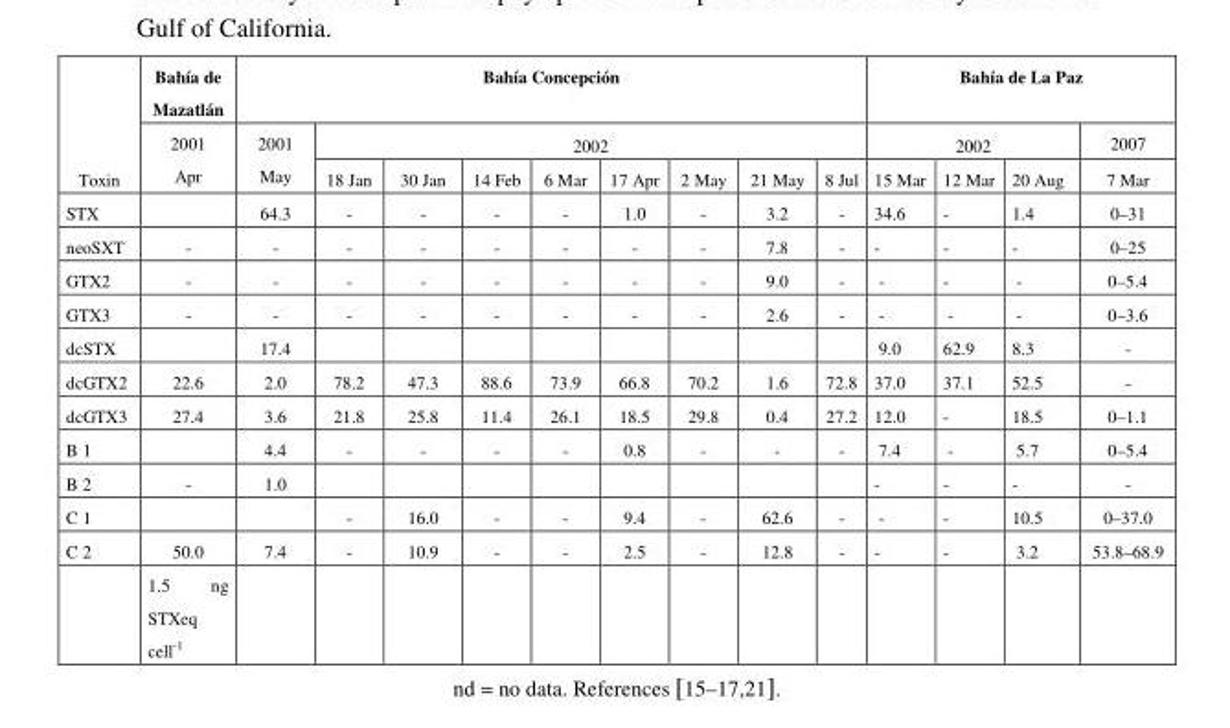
<table><thead><tr><td rowspan="3">Toxin</td><td rowspan="3">Bahía de Mazatlán 2001 Apr</td><td colspan="9">Bahía Concepción</td><td colspan="4">Bahía de La Paz</td></tr><tr><td rowspan="2">2001 May</td><td colspan="8">2002</td><td colspan="3">2002</td><td rowspan="2">2007 7 Mar</td></tr><tr><td>18 Jan</td><td>30 Jan</td><td>14 Feb</td><td>6 Mar</td><td>17 Apr</td><td>2 May</td><td>21 May</td><td>8 Jul</td><td>15 Mar</td><td>12 Mar</td><td>20 Aug</td></tr></thead><tbody><tr><td>STX</td><td></td><td>64.3</td><td>-</td><td>-</td><td>-</td><td>-</td><td>1.0</td><td>-</td><td>3.2</td><td>-</td><td>34.6</td><td>-</td><td>1.4</td><td>0–31</td></tr><tr><td>neoSXT</td><td>-</td><td>-</td><td>-</td><td>-</td><td>-</td><td>-</td><td>-</td><td>-</td><td>7.8</td><td>-</td><td>-</td><td>-</td><td>-</td><td>0–25</td></tr><tr><td>GTX2</td><td>-</td><td>-</td><td>-</td><td>-</td><td>-</td><td>-</td><td>-</td><td>-</td><td>9.0</td><td>-</td><td>-</td><td>-</td><td>-</td><td>0–5.4</td></tr><tr><td>GTX3</td><td>-</td><td>-</td><td>-</td><td>-</td><td>-</td><td>-</td><td>-</td><td>-</td><td>2.6</td><td>-</td><td>-</td><td>-</td><td>-</td><td>0–3.6</td></tr><tr><td>dcSTX</td><td></td><td>17.4</td><td></td><td></td><td></td><td></td><td></td><td></td><td></td><td></td><td>9.0</td><td>62.9</td><td>8.3</td><td>-</td></tr><tr><td>dcGTX2</td><td>22.6</td><td>2.0</td><td>78.2</td><td>47.3</td><td>88.6</td><td>73.9</td><td>66.8</td><td>70.2</td><td>1.6</td><td>72.8</td><td>37.0</td><td>37.1</td><td>52.5</td><td>-</td></tr><tr><td>dcGTX3</td><td>27.4</td><td>3.6</td><td>21.8</td><td>25.8</td><td>11.4</td><td>26.1</td><td>18.5</td><td>29.8</td><td>0.4</td><td>27.2</td><td>12.0</td><td>-</td><td>18.5</td><td>0–1.1</td></tr><tr><td>B 1</td><td></td><td>4.4</td><td>-</td><td>-</td><td>-</td><td>-</td><td>0.8</td><td>-</td><td>-</td><td>-</td><td>7.4</td><td>-</td><td>5.7</td><td>0–5.4</td></tr><tr><td>B 2</td><td>-</td><td>1.0</td><td></td><td></td><td></td><td></td><td></td><td></td><td></td><td></td><td>-</td><td>-</td><td>-</td><td>-</td></tr><tr><td>C 1</td><td></td><td></td><td>-</td><td>16.0</td><td>-</td><td>-</td><td>9.4</td><td>-</td><td>62.6</td><td>-</td><td>-</td><td>-</td><td>10.5</td><td>0–37.0</td></tr><tr><td rowspan="2">C 2</td><td>50.0</td><td>7.4</td><td>-</td><td>10.9</td><td>-</td><td>-</td><td>2.5</td><td>-</td><td>12.8</td><td>-</td><td>-</td><td>-</td><td>3.2</td><td>53.8–68.9</td></tr><tr><td>1.5 ng STXeq cell<sup>-1</sup></td><td></td><td></td><td></td><td></td><td></td><td></td><td></td><td></td><td></td><td></td><td></td><td></td><td></td></tr></tbody></table>